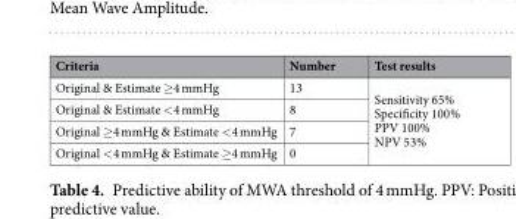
<table><thead><tr><td>Criteria</td><td>Number</td><td>Test results</td></tr></thead><tbody><tr><td>Original &amp; Estimate ≥4 mmHg</td><td>13</td><td rowspan="4">Sensitivity 65% Specificity 100% PPV 100% NPV 53%</td></tr><tr><td>Original &amp; Estimate &lt;4 mmHg</td><td>8</td></tr><tr><td>Original ≥4 mmHg &amp; Estimate &lt;4 mmHg</td><td>7</td></tr><tr><td>Original &lt;4 mmHg &amp; Estimate ≥4 mmHg</td><td>0</td></tr></tbody></table>